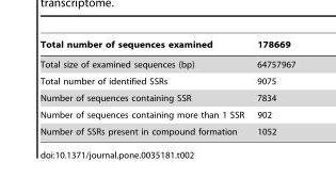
<table><thead><tr><td>Total number of sequences examined</td><td>178669</td></tr></thead><tbody><tr><td>Total size of examined sequences (bp)</td><td>64757967</td></tr><tr><td>Total number of identified SSRs</td><td>9075</td></tr><tr><td>Number of sequences containing SSR</td><td>7834</td></tr><tr><td>Number of sequences containing more than 1 SSR</td><td>902</td></tr><tr><td>Number of SSRs present in compound formation</td><td>1052</td></tr></tbody></table>